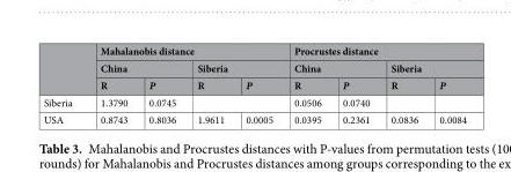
<table><thead><tr><td rowspan="3"></td><td colspan="4">Mahalanobis distance</td><td colspan="4">Procrustes distance</td></tr><tr><td colspan="2">China</td><td colspan="2">Siberia</td><td colspan="2">China</td><td colspan="2">Siberia</td></tr><tr><td>R</td><td>P</td><td>R</td><td>P</td><td>R</td><td>P</td><td>R</td><td>P</td></tr></thead><tbody><tr><td>Siberia</td><td>1.3790</td><td>0.0745</td><td colspan="2"></td><td>0.0506</td><td>0.0740</td><td></td><td></td></tr><tr><td>USA</td><td>0.8743</td><td>0.8036</td><td>1.9611</td><td>0.0005</td><td>0.0395</td><td>0.2361</td><td>0.0836</td><td>0.0084</td></tr></tbody></table>